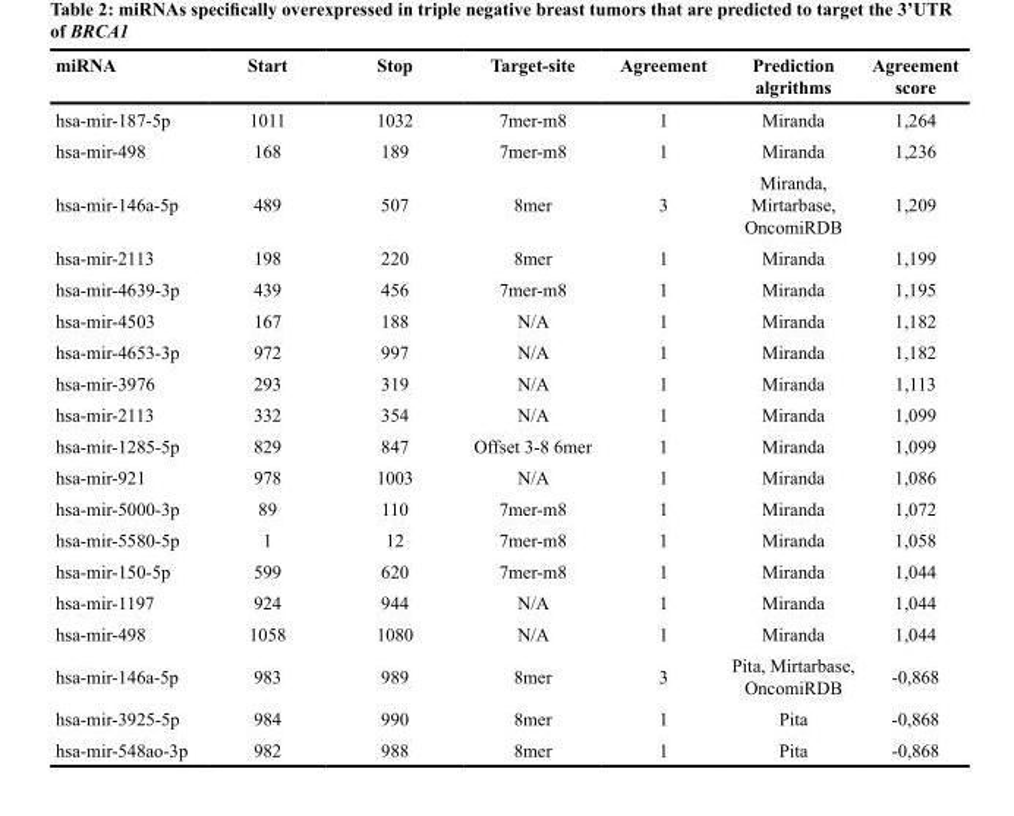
<table><thead><tr><td>miRNA</td><td>Start</td><td>Stop</td><td>Target-site</td><td>Agreement</td><td>Prediction algrithms</td><td>Agreement score</td></tr></thead><tbody><tr><td>hsa-mir-187-5p</td><td>1011</td><td>1032</td><td>7mer-m8</td><td>1</td><td>Miranda</td><td>1,264</td></tr><tr><td>hsa-mir-498</td><td>168</td><td>189</td><td>7mer-m8</td><td>1</td><td>Miranda</td><td>1,236</td></tr><tr><td>hsa-mir-146a-5p</td><td>489</td><td>507</td><td>8mer</td><td>3</td><td>Miranda, Mirtarbase, OncomiRDB</td><td>1,209</td></tr><tr><td>hsa-mir-2113</td><td>198</td><td>220</td><td>8mer</td><td>1</td><td>Miranda</td><td>1,199</td></tr><tr><td>hsa-mir-4639-3p</td><td>439</td><td>456</td><td>7mer-m8</td><td>1</td><td>Miranda</td><td>1,195</td></tr><tr><td>hsa-mir-4503</td><td>167</td><td>188</td><td>N/A</td><td>1</td><td>Miranda</td><td>1,182</td></tr><tr><td>hsa-mir-4653-3p</td><td>972</td><td>997</td><td>N/A</td><td>1</td><td>Miranda</td><td>1,182</td></tr><tr><td>hsa-mir-3976</td><td>293</td><td>319</td><td>N/A</td><td>1</td><td>Miranda</td><td>1,113</td></tr><tr><td>hsa-mir-2113</td><td>332</td><td>354</td><td>N/A</td><td>1</td><td>Miranda</td><td>1,099</td></tr><tr><td>hsa-mir-1285-5p</td><td>829</td><td>847</td><td>Offset 3-8 6mer</td><td>1</td><td>Miranda</td><td>1,099</td></tr><tr><td>hsa-mir-921</td><td>978</td><td>1003</td><td>N/A</td><td>1</td><td>Miranda</td><td>1,086</td></tr><tr><td>hsa-mir-5000-3p</td><td>89</td><td>110</td><td>7mer-m8</td><td>1</td><td>Miranda</td><td>1,072</td></tr><tr><td>hsa-mir-5580-5p</td><td>1</td><td>12</td><td>7mer-m8</td><td>1</td><td>Miranda</td><td>1,058</td></tr><tr><td>hsa-mir-150-5p</td><td>599</td><td>620</td><td>7mer-m8</td><td>1</td><td>Miranda</td><td>1,044</td></tr><tr><td>hsa-mir-1197</td><td>924</td><td>944</td><td>N/A</td><td>1</td><td>Miranda</td><td>1,044</td></tr><tr><td>hsa-mir-498</td><td>1058</td><td>1080</td><td>N/A</td><td>1</td><td>Miranda</td><td>1,044</td></tr><tr><td>hsa-mir-146a-5p</td><td>983</td><td>989</td><td>8mer</td><td>3</td><td>Pita, Mirtarbase, OncomiRDB</td><td>-0,868</td></tr><tr><td>hsa-mir-3925-5p</td><td>984</td><td>990</td><td>8mer</td><td>1</td><td>Pita</td><td>-0,868</td></tr><tr><td>hsa-mir-548ao-3p</td><td>982</td><td>988</td><td>8mer</td><td>1</td><td>Pita</td><td>-0,868</td></tr></tbody></table>